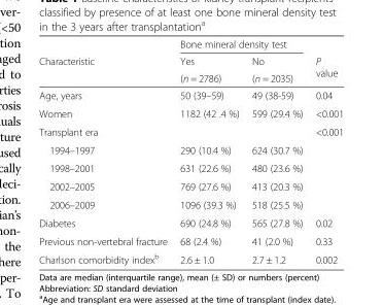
<table><thead><tr><td rowspan="3">Characteristic</td><td colspan="2">Bone mineral density test</td><td rowspan="3">P value</td></tr><tr><td rowspan="2">Yes (n = 2786)</td><td rowspan="2">No (n = 2035)</td></tr><tr></tr></thead><tbody><tr><td>Age, years</td><td>50 (39–59)</td><td>49 (38-59)</td><td>0.04</td></tr><tr><td>Women</td><td>1182 (42 .4 %)</td><td>599 (29.4 %)</td><td>&lt;0.001</td></tr><tr><td>Transplant era</td><td></td><td></td><td>&lt;0.001</td></tr><tr><td>1994–1997</td><td>290 (10.4 %)</td><td>624 (30.7 %)</td><td></td></tr><tr><td>1998–2001</td><td>631 (22.6 %)</td><td>480 (23.6 %)</td><td></td></tr><tr><td>2002–2005</td><td>769 (27.6 %)</td><td>413 (20.3 %)</td><td></td></tr><tr><td>2006–2009</td><td>1096 (39.3 %)</td><td>518 (25.5 %)</td><td></td></tr><tr><td>Diabetes</td><td>690 (24.8 %)</td><td>565 (27.8 %)</td><td>0.02</td></tr><tr><td>Previous non-vertebral fracture</td><td>68 (2.4 %)</td><td>41 (2.0 %)</td><td>0.33</td></tr><tr><td>Charlson comorbidity index<sup>b</sup></td><td>2.6 ± 1.0</td><td>2.7 ± 1.2</td><td>0.002</td></tr></tbody></table>